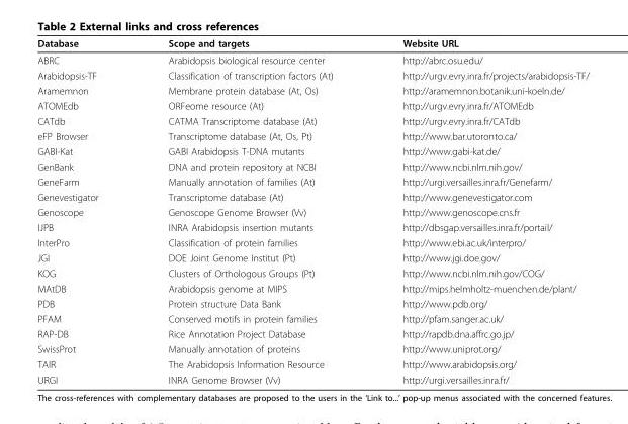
<table><thead><tr><td>Database</td><td>Scope and targets</td><td>Website URL</td></tr></thead><tbody><tr><td>ABRC</td><td>Arabidopsis biological resource center</td><td>http://abrc.osu.edu/</td></tr><tr><td>Arabidopsis-TF</td><td>Classification of transcription factors (At)</td><td>http://urgv.evry.inra.fr/projects/arabidopsis-TF/</td></tr><tr><td>Aramemnon</td><td>Membrane protein database (At, Os)</td><td>http://aramemnon.botanik.uni-koeln.de/</td></tr><tr><td>ATOMEdb</td><td>ORFeome resource (At)</td><td>http://urgv.evry.inra.fr/ATOMEdb</td></tr><tr><td>CATdb</td><td>CATMA Transcriptome database (At)</td><td>http://urgv.evry.inra.fr/CATdb</td></tr><tr><td>eFP Browser</td><td>Transcriptome database (At, Os, Pt)</td><td>http://www.bar.utoronto.ca/</td></tr><tr><td>GABI-Kat</td><td>GABI Arabidopsis T-DNA mutants</td><td>http://www.gabi-kat.de/</td></tr><tr><td>GenBank</td><td>DNA and protein repository at NCBI</td><td>http://www.ncbi.nlm.nih.gov/</td></tr><tr><td>GeneFarm</td><td>Manually annotation of families (At)</td><td>http://urgi.versailles.inra.fr/Genefarm/</td></tr><tr><td>Genevestigator</td><td>Transcriptome database (At)</td><td>http://www.genevestigator.com</td></tr><tr><td>Genoscope</td><td>Genoscope Genome Browser (Vv)</td><td>http://www.genoscope.cns.fr</td></tr><tr><td>IJPB</td><td>INRA Arabidopsis insertion mutants</td><td>http://dbsgap.versailles.inra.fr/portail/</td></tr><tr><td>InterPro</td><td>Classification of protein families</td><td>http://www.ebi.ac.uk/interpro/</td></tr><tr><td>JGI</td><td>DOE Joint Genome Institut (Pt)</td><td>http://www.jgi.doe.gov/</td></tr><tr><td>KOG</td><td>Clusters of Orthologous Groups (Pt)</td><td>http://www.ncbi.nlm.nih.gov/COG/</td></tr><tr><td>MAtDB</td><td>Arabidopsis genome at MIPS</td><td>http://mips.helmholtz-muenchen.de/plant/</td></tr><tr><td>PDB</td><td>Protein structure Data Bank</td><td>http://www.pdb.org/</td></tr><tr><td>PFAM</td><td>Conserved motifs in protein families</td><td>http://pfam.sanger.ac.uk/</td></tr><tr><td>RAP-DB</td><td>Rice Annotation Project Database</td><td>http://rapdb.dna.affrc.go.jp/</td></tr><tr><td>SwissProt</td><td>Manually annotation of proteins</td><td>http://www.uniprot.org/</td></tr><tr><td>TAIR</td><td>The Arabidopsis Information Resource</td><td>http://www.arabidopsis.org/</td></tr><tr><td>URGI</td><td>INRA Genome Browser (Vv)</td><td>http://urgi.versailles.inra.fr/</td></tr></tbody></table>